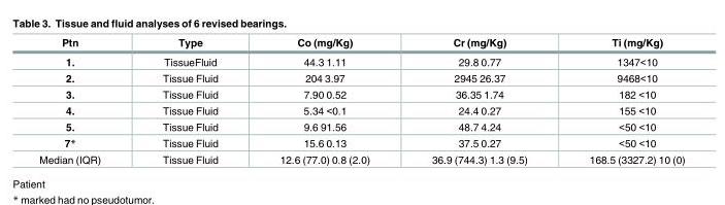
<table><thead><tr><td>Ptn</td><td>Type</td><td>Co (mg/Kg)</td><td>Cr (mg/Kg)</td><td>Ti (mg/Kg)</td></tr></thead><tbody><tr><td>1.</td><td>TissueFluid</td><td>44.3 1.11</td><td>29.8 0.77</td><td>1347&lt;10</td></tr><tr><td>2.</td><td>Tissue Fluid</td><td>204 3.97</td><td>2945 26.37</td><td>9468&lt;10</td></tr><tr><td>3.</td><td>Tissue Fluid</td><td>7.90 0.52</td><td>36.35 1.74</td><td>182 &lt;10</td></tr><tr><td>4.</td><td>Tissue Fluid</td><td>5.34 &lt;0.1</td><td>24.4 0.27</td><td>155 &lt;10</td></tr><tr><td>5.</td><td>Tissue Fluid</td><td>9.6 91.56</td><td>48.7 4.24</td><td>&lt;50 &lt;10</td></tr><tr><td>7*</td><td>Tissue Fluid</td><td>15.6 0.13</td><td>37.5 0.27</td><td>&lt;50 &lt;10</td></tr><tr><td>Median (IQR)</td><td>Tissue Fluid</td><td>12.6 (77.0) 0.8 (2.0)</td><td>36.9 (744.3) 1.3 (9.5)</td><td>168.5 (3327.2) 10 (0)</td></tr></tbody></table>